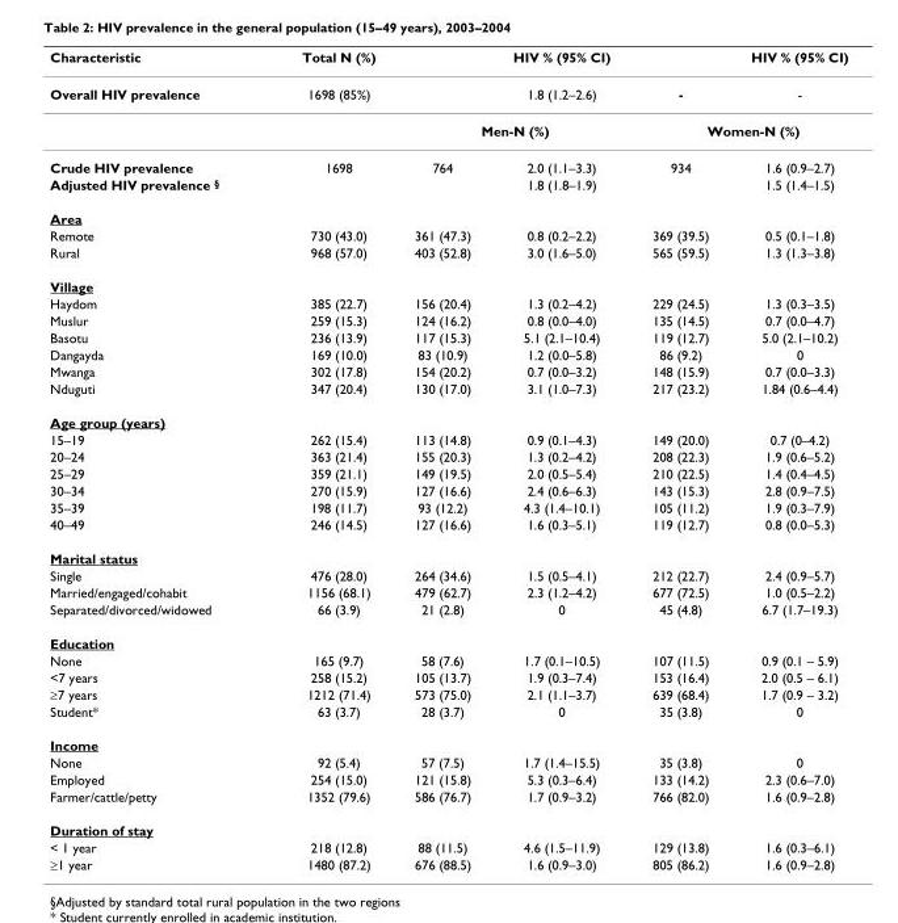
<table><thead><tr><td>Characteristic</td><td>Total N (%)</td><td></td><td>HIV % (95% CI)</td><td></td><td>HIV % (95% CI)</td></tr></thead><tbody><tr><td rowspan="2">Overall HIV prevalence</td><td>1698 (85%)</td><td></td><td>1.8 (1.2–2.6)</td><td>-</td><td>-</td></tr><tr><td></td><td colspan="2">Men-N (%)</td><td colspan="2">Women-N (%)</td></tr><tr><td>Crude HIV prevalence</td><td>1698</td><td>764</td><td>2.0 (1.1–3.3)</td><td>934</td><td>1.6 (0.9–2.7)</td></tr><tr><td>Adjusted HIV prevalence <sup>§</sup></td><td></td><td></td><td>1.8 (1.8–1.9)</td><td></td><td>1.5 (1.4–1.5)</td></tr><tr><td colspan="6">Area</td></tr><tr><td>Remote</td><td>730 (43.0)</td><td>361 (47.3)</td><td>0.8 (0.2–2.2)</td><td>369 (39.5)</td><td>0.5 (0.1–1.8)</td></tr><tr><td>Rural</td><td>968 (57.0)</td><td>403 (52.8)</td><td>3.0 (1.6–5.0)</td><td>565 (59.5)</td><td>1.3 (1.3–3.8)</td></tr><tr><td colspan="6">Village</td></tr><tr><td>Haydom</td><td>385 (22.7)</td><td>156 (20.4)</td><td>1.3 (0.2–4.2)</td><td>229 (24.5)</td><td>1.3 (0.3–3.5)</td></tr><tr><td>Muslur</td><td>259 (15.3)</td><td>124 (16.2)</td><td>0.8 (0.0–4.0)</td><td>135 (14.5)</td><td>0.7 (0.0–4.7)</td></tr><tr><td>Basotu</td><td>236 (13.9)</td><td>117 (15.3)</td><td>5.1 (2.1–10.4)</td><td>119 (12.7)</td><td>5.0 (2.1–10.2)</td></tr><tr><td>Dangayda</td><td>169 (10.0)</td><td>83 (10.9)</td><td>1.2 (0.0–5.8)</td><td>86 (9.2)</td><td>0</td></tr><tr><td>Mwanga</td><td>302 (17.8)</td><td>154 (20.2)</td><td>0.7 (0.0–3.2)</td><td>148 (15.9)</td><td>0.7 (0.0–3.3)</td></tr><tr><td>Nduguti</td><td>347 (20.4)</td><td>130 (17.0)</td><td>3.1 (1.0–7.3)</td><td>217 (23.2)</td><td>1.84 (0.6–4.4)</td></tr><tr><td colspan="6">Age group (years)</td></tr><tr><td>15–19</td><td>262 (15.4)</td><td>113 (14.8)</td><td>0.9 (0.1–4.3)</td><td>149 (20.0)</td><td>0.7 (0–4.2)</td></tr><tr><td>20–24</td><td>363 (21.4)</td><td>155 (20.3)</td><td>1.3 (0.2–4.2)</td><td>208 (22.3)</td><td>1.9 (0.6–5.2)</td></tr><tr><td>25–29</td><td>359 (21.1)</td><td>149 (19.5)</td><td>2.0 (0.5–5.4)</td><td>210 (22.5)</td><td>1.4 (0.4–4.5)</td></tr><tr><td>30–34</td><td>270 (15.9)</td><td>127 (16.6)</td><td>2.4 (0.6–6.3)</td><td>143 (15.3)</td><td>2.8 (0.9–7.5)</td></tr><tr><td>35–39</td><td>198 (11.7)</td><td>93 (12.2)</td><td>4.3 (1.4–10.1)</td><td>105 (11.2)</td><td>1.9 (0.3–7.9)</td></tr><tr><td>40–49</td><td>246 (14.5)</td><td>127 (16.6)</td><td>1.6 (0.3–5.1)</td><td>119 (12.7)</td><td>0.8 (0.0–5.3)</td></tr><tr><td colspan="6">Marital status</td></tr><tr><td>Single</td><td>476 (28.0)</td><td>264 (34.6)</td><td>1.5 (0.5–4.1)</td><td>212 (22.7)</td><td>2.4 (0.9–5.7)</td></tr><tr><td>Married/engaged/cohabit</td><td>1156 (68.1)</td><td>479 (62.7)</td><td>2.3 (1.2–4.2)</td><td>677 (72.5)</td><td>1.0 (0.5–2.2)</td></tr><tr><td>Separated/divorced/widowed</td><td>66 (3.9)</td><td>21 (2.8)</td><td>0</td><td>45 (4.8)</td><td>6.7 (1.7–19.3)</td></tr><tr><td colspan="6">Education</td></tr><tr><td>None</td><td>165 (9.7)</td><td>58 (7.6)</td><td>1.7 (0.1–10.5)</td><td>107 (11.5)</td><td>0.9 (0.1 – 5.9)</td></tr><tr><td>&lt;7 years</td><td>258 (15.2)</td><td>105 (13.7)</td><td>1.9 (0.3–7.4)</td><td>153 (16.4)</td><td>2.0 (0.5 – 6.1)</td></tr><tr><td>≥7 years</td><td>1212 (71.4)</td><td>573 (75.0)</td><td>2.1 (1.1–3.7)</td><td>639 (68.4)</td><td>1.7 (0.9 – 3.2)</td></tr><tr><td>Student*</td><td>63 (3.7)</td><td>28 (3.7)</td><td>0</td><td>35 (3.8)</td><td>0</td></tr><tr><td colspan="6">Income</td></tr><tr><td>None</td><td>92 (5.4)</td><td>57 (7.5)</td><td>1.7 (1.4–15.5)</td><td>35 (3.8)</td><td>0</td></tr><tr><td>Employed</td><td>254 (15.0)</td><td>121 (15.8)</td><td>5.3 (0.3–6.4)</td><td>133 (14.2)</td><td>2.3 (0.6–7.0)</td></tr><tr><td>Farmer/cattle/petty</td><td>1352 (79.6)</td><td>586 (76.7)</td><td>1.7 (0.9–3.2)</td><td>766 (82.0)</td><td>1.6 (0.9–2.8)</td></tr><tr><td colspan="6">Duration of stay</td></tr><tr><td>&lt; 1 year</td><td>218 (12.8)</td><td>88 (11.5)</td><td>4.6 (1.5–11.9)</td><td>129 (13.8)</td><td>1.6 (0.3–6.1)</td></tr><tr><td>≥1 year</td><td>1480 (87.2)</td><td>676 (88.5)</td><td>1.6 (0.9–3.0)</td><td>805 (86.2)</td><td>1.6 (0.9–2.8)</td></tr></tbody></table>